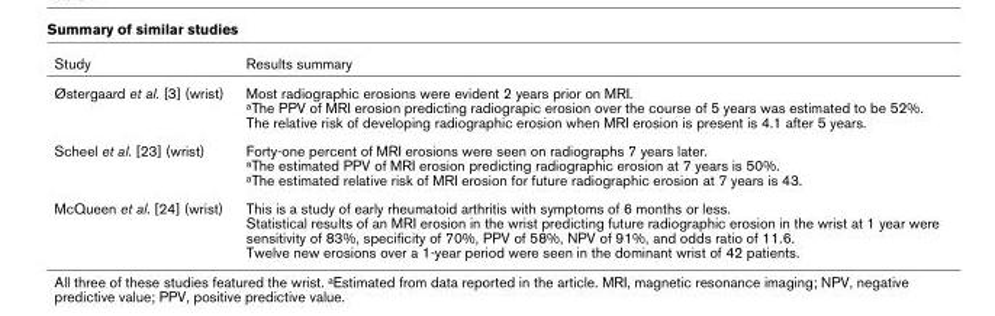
<table><thead><tr><td>Study</td><td>Results summary</td></tr></thead><tbody><tr><td>Østergaard et al. [3] (wrist)</td><td>Most radiographic erosions were evident 2 years prior on MRI. <sup>a</sup>The PPV of MRI erosion predicting radiograpic erosion over the course of 5 years was estimated to be 52%. The relative risk of developing radiographic erosion when MRI erosion is present is 4.1 after 5 years.</td></tr><tr><td>Scheel et al. [23] (wrist)</td><td>Forty-one percent of MRI erosions were seen on radiographs 7 years later. <sup>a</sup>The estimated PPV of MRI erosion predicting radiographic erosion at 7 years is 50%. <sup>a</sup>The estimated relative risk of MRI erosion for future radiographic erosion at 7 years is 43.</td></tr><tr><td>McQueen et al. [24] (wrist)</td><td>This is a study of early rheumatoid arthritis with symptoms of 6 months or less. Statistical results of an MRI erosion in the wrist predicting future radiographic erosion in the wrist at 1 year were sensitivity of 83%, specificity of 70%, PPV of 58%, NPV of 91%, and odds ratio of 11.6. Twelve new erosions over a 1-year period were seen in the dominant wrist of 42 patients.</td></tr></tbody></table>